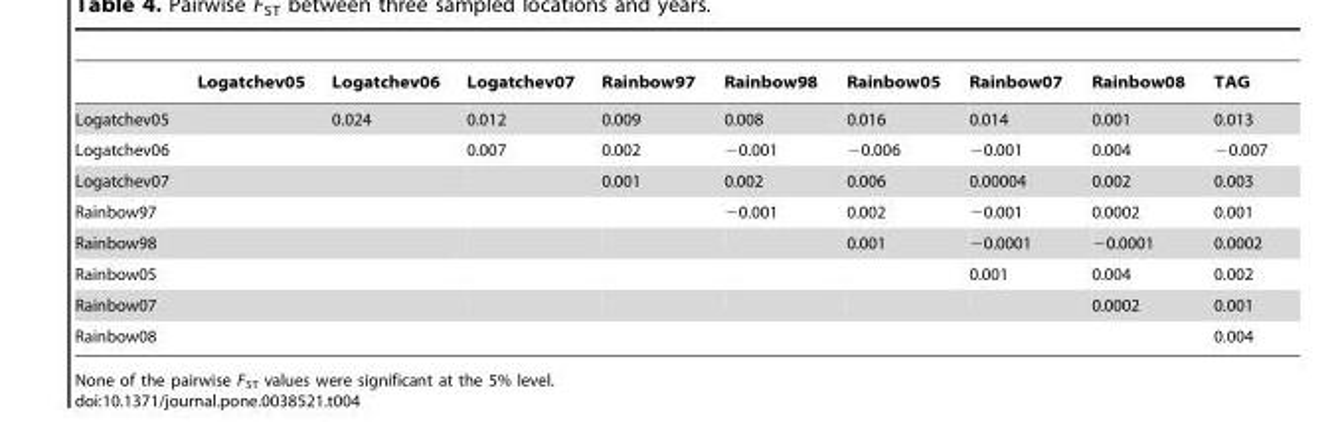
<table><thead><tr><td></td><td>Logatchev05</td><td>Logatchev06</td><td>Logatchev07</td><td>Rainbow97</td><td>Rainbow98</td><td>Rainbow05</td><td>Rainbow07</td><td>Rainbow08</td><td>TAG</td></tr></thead><tbody><tr><td>Logatchev05</td><td></td><td>0.024</td><td>0.012</td><td>0.009</td><td>0.008</td><td>0.016</td><td>0.014</td><td>0.001</td><td>0.013</td></tr><tr><td>Logatchev06</td><td></td><td></td><td>0.007</td><td>0.002</td><td>−0.001</td><td>−0.006</td><td>−0.001</td><td>0.004</td><td>−0.007</td></tr><tr><td>Logatchev07</td><td></td><td></td><td></td><td>0.001</td><td>0.002</td><td>0.006</td><td>0.00004</td><td>0.002</td><td>0.003</td></tr><tr><td>Rainbow97</td><td></td><td></td><td></td><td></td><td>−0.001</td><td>0.002</td><td>−0.001</td><td>0.0002</td><td>0.001</td></tr><tr><td>Rainbow98</td><td></td><td></td><td></td><td></td><td></td><td>0.001</td><td>−0.0001</td><td>−0.0001</td><td>0.0002</td></tr><tr><td>Rainbow05</td><td></td><td></td><td></td><td></td><td></td><td></td><td>0.001</td><td>0.004</td><td>0.002</td></tr><tr><td>Rainbow07</td><td></td><td></td><td></td><td></td><td></td><td></td><td></td><td>0.0002</td><td>0.001</td></tr><tr><td>Rainbow08</td><td></td><td></td><td></td><td></td><td></td><td></td><td></td><td></td><td>0.004</td></tr></tbody></table>